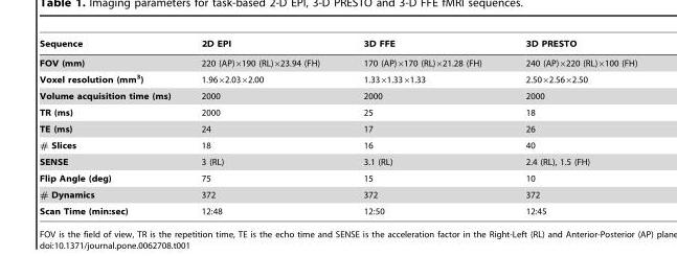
<table><thead><tr><td>Sequence</td><td>2D EPI</td><td>3D FFE</td><td>3D PRESTO</td></tr></thead><tbody><tr><td>FOV (mm)</td><td>220 (AP)×190 (RL)×23.94 (FH)</td><td>170 (AP)×170 (RL)×21.28 (FH)</td><td>240 (AP)×220 (RL)×100 (FH)</td></tr><tr><td>Voxel resolution (mm<sup>3</sup>)</td><td>1.96×2.03×2.00</td><td>1.33×1.33×1.33</td><td>2.50×2.56×2.50</td></tr><tr><td>Volume acquisition time (ms)</td><td>2000</td><td>2000</td><td>2000</td></tr><tr><td>TR (ms)</td><td>2000</td><td>25</td><td>18</td></tr><tr><td>TE (ms)</td><td>24</td><td>17</td><td>26</td></tr><tr><td># Slices</td><td>18</td><td>16</td><td>40</td></tr><tr><td>SENSE</td><td>3 (RL)</td><td>3.1 (RL)</td><td>2.4 (RL), 1.5 (FH)</td></tr><tr><td>Flip Angle (deg)</td><td>75</td><td>15</td><td>10</td></tr><tr><td># Dynamics</td><td>372</td><td>372</td><td>372</td></tr><tr><td>Scan Time (min:sec)</td><td>12:48</td><td>12:50</td><td>12:45</td></tr></tbody></table>